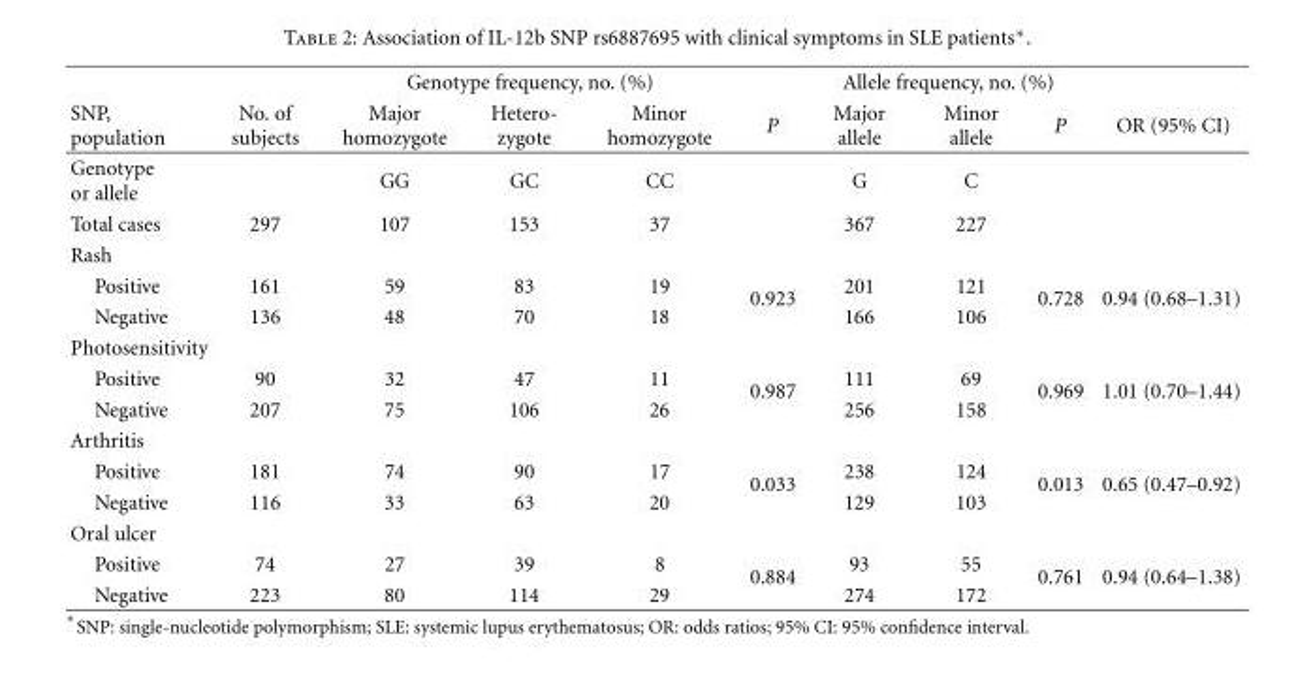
<table><thead><tr><td rowspan="2">SNP, population</td><td rowspan="2">No. of subjects</td><td colspan="3">Genotype frequency, no. (%)</td><td rowspan="2">P</td><td colspan="3">Allele frequency, no. (%)</td><td rowspan="2">OR (95% CI)</td></tr><tr><td>Major homozygote</td><td>Hetero- zygote</td><td>Minor homozygote</td><td>Major allele</td><td>Minor allele</td><td>P</td></tr></thead><tbody><tr><td>Genotype or allele</td><td></td><td>GG</td><td>GC</td><td>CC</td><td></td><td>G</td><td>C</td><td></td><td></td></tr><tr><td>Total cases</td><td>297</td><td>107</td><td>153</td><td>37</td><td></td><td>367</td><td>227</td><td></td><td></td></tr><tr><td colspan="10">Rash</td></tr><tr><td>Positive</td><td>161</td><td>59</td><td>83</td><td>19</td><td rowspan="2">0.923</td><td>201</td><td>121</td><td rowspan="2">0.728</td><td rowspan="2">0.94 (0.68–1.31)</td></tr><tr><td>Negative</td><td>136</td><td>48</td><td>70</td><td>18</td><td>166</td><td>106</td></tr><tr><td colspan="10">Photosensitivity</td></tr><tr><td>Positive</td><td>90</td><td>32</td><td>47</td><td>11</td><td rowspan="2">0.987</td><td>111</td><td>69</td><td rowspan="2">0.969</td><td rowspan="2">1.01 (0.70–1.44)</td></tr><tr><td>Negative</td><td>207</td><td>75</td><td>106</td><td>26</td><td>256</td><td>158</td></tr><tr><td colspan="10">Arthritis</td></tr><tr><td>Positive</td><td>181</td><td>74</td><td>90</td><td>17</td><td rowspan="2">0.033</td><td>238</td><td>124</td><td rowspan="2">0.013</td><td rowspan="2">0.65 (0.47–0.92)</td></tr><tr><td>Negative</td><td>116</td><td>33</td><td>63</td><td>20</td><td>129</td><td>103</td></tr><tr><td colspan="10">Oral ulcer</td></tr><tr><td>Positive</td><td>74</td><td>27</td><td>39</td><td>8</td><td rowspan="2">0.884</td><td>93</td><td>55</td><td rowspan="2">0.761</td><td rowspan="2">0.94 (0.64–1.38)</td></tr><tr><td>Negative</td><td>223</td><td>80</td><td>114</td><td>29</td><td>274</td><td>172</td></tr></tbody></table>